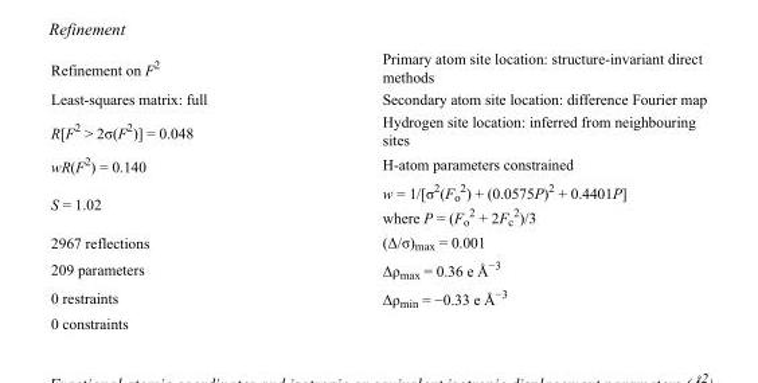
<table><tbody><tr><td>Refinement on F<sup>2</sup></td><td>Primary atom site location: structure-invariant direct methods</td></tr><tr><td>Least-squares matrix: full</td><td>Secondary atom site location: difference Fourier map</td></tr><tr><td>R[F<sup>2</sup> &gt; 2σ(F<sup>2</sup>)] = 0.048</td><td>Hydrogen site location: inferred from neighbouring sites</td></tr><tr><td>wR(F<sup>2</sup>) = 0.140</td><td>H-atom parameters constrained</td></tr><tr><td>S = 1.02</td><td>w = 1/[σ<sup>2</sup>(F<sub>o</sub> <sup>2</sup>) + (0.0575P)<sup>2</sup> + 0.4401P] where P = (F<sub>o</sub> <sup>2</sup> + 2F<sub>c</sub> <sup>2</sup>)/3</td></tr><tr><td>2967 reflections</td><td>(Δ/σ)<sub>max</sub> = 0.001</td></tr><tr><td>209 parameters</td><td>Δρ<sub>max</sub> = 0.36 e Å<sup>−3</sup></td></tr><tr><td>0 restraints</td><td>Δρ<sub>min</sub> = −0.33 e Å<sup>−3</sup></td></tr><tr><td>0 constraints</td><td></td></tr></tbody></table>